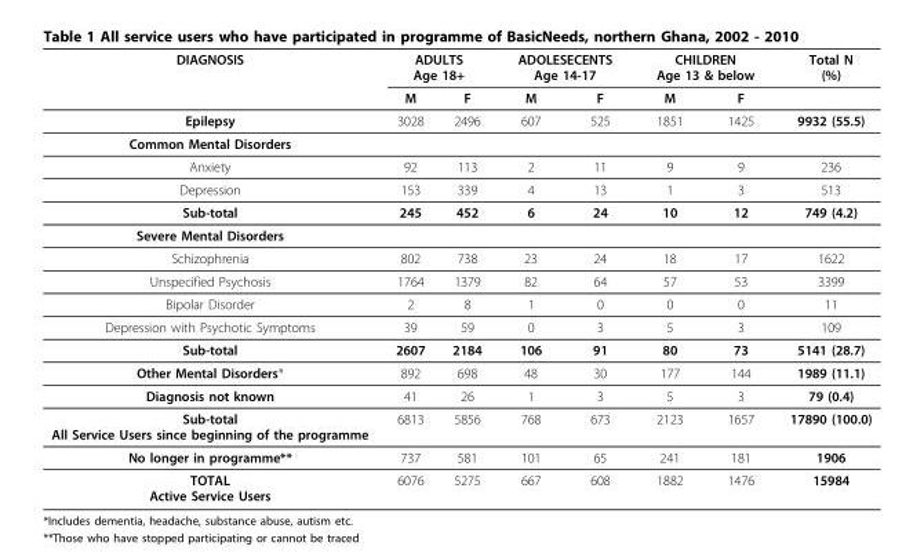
<table><thead><tr><td rowspan="2">DIAGNOSIS</td><td colspan="2">ADULTS Age 18+</td><td colspan="2">ADOLESECENTS Age 14-17</td><td colspan="2">CHILDREN Age 13 &amp; below</td><td rowspan="2">Total N (%)</td></tr><tr><td>M</td><td>F</td><td>M</td><td>F</td><td>M</td><td>F</td></tr></thead><tbody><tr><td>Epilepsy</td><td>3028</td><td>2496</td><td>607</td><td>525</td><td>1851</td><td>1425</td><td>9932 (55.5)</td></tr><tr><td colspan="8">Common Mental Disorders</td></tr><tr><td>Anxiety</td><td>92</td><td>113</td><td>2</td><td>11</td><td>9</td><td>9</td><td>236</td></tr><tr><td>Depression</td><td>153</td><td>339</td><td>4</td><td>13</td><td>1</td><td>3</td><td>513</td></tr><tr><td>Sub-total</td><td>245</td><td>452</td><td>6</td><td>24</td><td>10</td><td>12</td><td>749 (4.2)</td></tr><tr><td colspan="8">Severe Mental Disorders</td></tr><tr><td>Schizophrenia</td><td>802</td><td>738</td><td>23</td><td>24</td><td>18</td><td>17</td><td>1622</td></tr><tr><td>Unspecified Psychosis</td><td>1764</td><td>1379</td><td>82</td><td>64</td><td>57</td><td>53</td><td>3399</td></tr><tr><td>Bipolar Disorder</td><td>2</td><td>8</td><td>1</td><td>0</td><td>0</td><td>0</td><td>11</td></tr><tr><td>Depression with Psychotic Symptoms</td><td>39</td><td>59</td><td>0</td><td>3</td><td>5</td><td>3</td><td>109</td></tr><tr><td>Sub-total</td><td>2607</td><td>2184</td><td>106</td><td>91</td><td>80</td><td>73</td><td>5141 (28.7)</td></tr><tr><td>Other Mental Disorders*</td><td>892</td><td>698</td><td>48</td><td>30</td><td>177</td><td>144</td><td>1989 (11.1)</td></tr><tr><td>Diagnosis not known</td><td>41</td><td>26</td><td>1</td><td>3</td><td>5</td><td>3</td><td>79 (0.4)</td></tr><tr><td>Sub-total All Service Users since beginning of the programme</td><td>6813</td><td>5856</td><td>768</td><td>673</td><td>2123</td><td>1657</td><td>17890 (100.0)</td></tr><tr><td>No longer in programme**</td><td>737</td><td>581</td><td>101</td><td>65</td><td>241</td><td>181</td><td>1906</td></tr><tr><td>TOTAL Active Service Users</td><td>6076</td><td>5275</td><td>667</td><td>608</td><td>1882</td><td>1476</td><td>15984</td></tr></tbody></table>